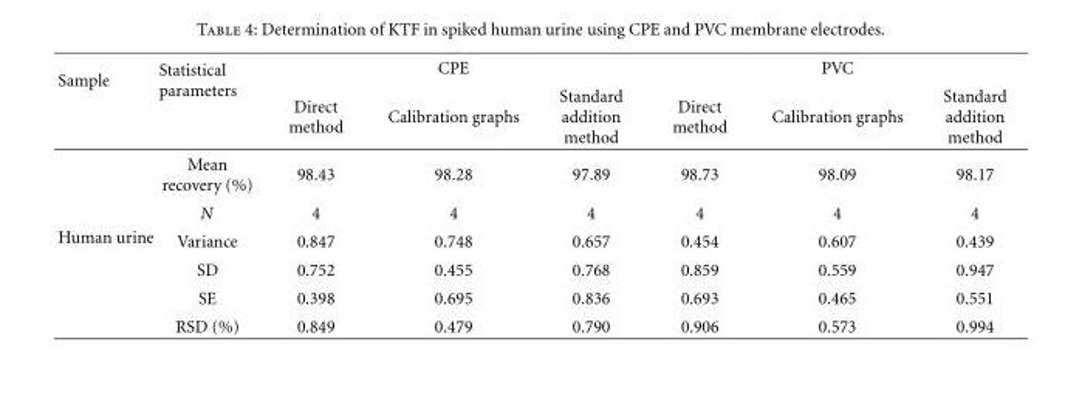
<table><thead><tr><td rowspan="2">Sample</td><td rowspan="2">Statistical parameters</td><td colspan="3">CPE</td><td colspan="3">PVC</td></tr><tr><td>Direct method</td><td>Calibration graphs</td><td>Standard addition method</td><td>Direct method</td><td>Calibration graphs</td><td>Standard addition method</td></tr></thead><tbody><tr><td rowspan="6">Human urine</td><td>Mean recovery (%)</td><td>98.43</td><td>98.28</td><td>97.89</td><td>98.73</td><td>98.09</td><td>98.17</td></tr><tr><td>N</td><td>4</td><td>4</td><td>4</td><td>4</td><td>4</td><td>4</td></tr><tr><td>Variance</td><td>0.847</td><td>0.748</td><td>0.657</td><td>0.454</td><td>0.607</td><td>0.439</td></tr><tr><td>SD</td><td>0.752</td><td>0.455</td><td>0.768</td><td>0.859</td><td>0.559</td><td>0.947</td></tr><tr><td>SE</td><td>0.398</td><td>0.695</td><td>0.836</td><td>0.693</td><td>0.465</td><td>0.551</td></tr><tr><td>RSD (%)</td><td>0.849</td><td>0.479</td><td>0.790</td><td>0.906</td><td>0.573</td><td>0.994</td></tr></tbody></table>